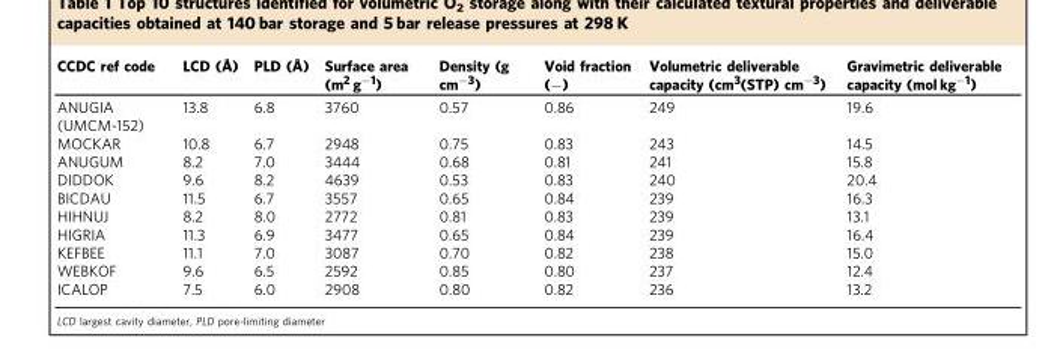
<table><thead><tr><td>CCDC ref code</td><td>LCD (Å)</td><td>PLD (Å)</td><td>Surface area (m<sup>2</sup> g<sup>−1</sup>)</td><td>Density (g cm<sup>−3</sup>)</td><td>Void fraction (−)</td><td>Volumetric deliverable capacity (cm<sup>3</sup>(STP) cm<sup>−3</sup>)</td><td>Gravimetric deliverable capacity (mol kg<sup>−1</sup>)</td></tr></thead><tbody><tr><td>ANUGIA (UMCM-152)</td><td>13.8</td><td>6.8</td><td>3760</td><td>0.57</td><td>0.86</td><td>249</td><td>19.6</td></tr><tr><td>MOCKAR</td><td>10.8</td><td>6.7</td><td>2948</td><td>0.75</td><td>0.83</td><td>243</td><td>14.5</td></tr><tr><td>ANUGUM</td><td>8.2</td><td>7.0</td><td>3444</td><td>0.68</td><td>0.81</td><td>241</td><td>15.8</td></tr><tr><td>DIDDOK</td><td>9.6</td><td>8.2</td><td>4639</td><td>0.53</td><td>0.83</td><td>240</td><td>20.4</td></tr><tr><td>BICDAU</td><td>11.5</td><td>6.7</td><td>3557</td><td>0.65</td><td>0.84</td><td>239</td><td>16.3</td></tr><tr><td>HIHNUJ</td><td>8.2</td><td>8.0</td><td>2772</td><td>0.81</td><td>0.83</td><td>239</td><td>13.1</td></tr><tr><td>HIGRIA</td><td>11.3</td><td>6.9</td><td>3477</td><td>0.65</td><td>0.84</td><td>239</td><td>16.4</td></tr><tr><td>KEFBEE</td><td>11.1</td><td>7.0</td><td>3087</td><td>0.70</td><td>0.82</td><td>238</td><td>15.0</td></tr><tr><td>WEBKOF</td><td>9.6</td><td>6.5</td><td>2592</td><td>0.85</td><td>0.80</td><td>237</td><td>12.4</td></tr><tr><td>ICALOP</td><td>7.5</td><td>6.0</td><td>2908</td><td>0.80</td><td>0.82</td><td>236</td><td>13.2</td></tr></tbody></table>